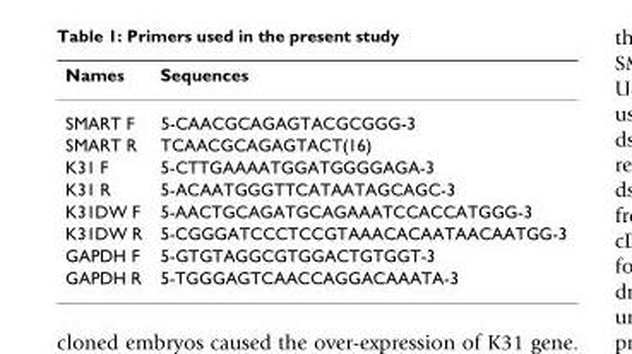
<table><thead><tr><td>Names</td><td>Sequences</td></tr></thead><tbody><tr><td>SMART F</td><td>5-CAACGCAGAGTACGCGGG-3</td></tr><tr><td>SMART R</td><td>TCAACGCAGAGTACT(16)</td></tr><tr><td>K31 F</td><td>5-CTTGAAAATGGATGGGGAGA-3</td></tr><tr><td>K31 R</td><td>5-ACAATGGGTTCATAATAGCAGC-3</td></tr><tr><td>K31DW F</td><td>5-AACTGCAGATGCAGAAATCCACCATGGG-3</td></tr><tr><td>K31DW R</td><td>5-CGGGATCCCTCCGTAAACACAATAACAATGG-3</td></tr><tr><td>GAPDH F</td><td>5-GTGTAGGCGTGGACTGTGGT-3</td></tr><tr><td>GAPDH R</td><td>5-TGGGAGTCAACCAGGACAAATA-3</td></tr></tbody></table>